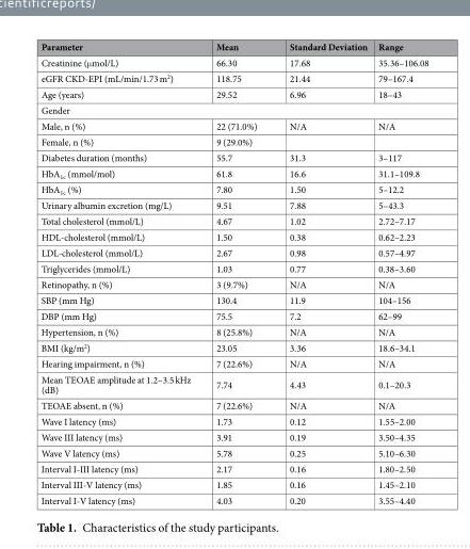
<table><thead><tr><td>Parameter</td><td>Mean</td><td>Standard Deviation</td><td>Range</td></tr></thead><tbody><tr><td>Creatinine (μmol/L)</td><td>66.30</td><td>17.68</td><td>35.36–106.08</td></tr><tr><td>eGFR CKD-EPI (mL/min/1.73 m<sup>2</sup>)</td><td>118.75</td><td>21.44</td><td>79–167.4</td></tr><tr><td>Age (years)</td><td>29.52</td><td>6.96</td><td>18–43</td></tr><tr><td colspan="4">Gender</td></tr><tr><td>Male, n (%)</td><td>22 (71.0%)</td><td>N/A</td><td>N/A</td></tr><tr><td>Female, n (%)</td><td>9 (29.0%)</td><td></td><td></td></tr><tr><td>Diabetes duration (months)</td><td>55.7</td><td>31.3</td><td>3–117</td></tr><tr><td>HbA<sub>1c</sub> (mmol/mol)</td><td>61.8</td><td>16.6</td><td>31.1–109.8</td></tr><tr><td>HbA<sub>1c</sub> (%)</td><td>7.80</td><td>1.50</td><td>5–12.2</td></tr><tr><td>Urinary albumin excretion (mg/L)</td><td>9.51</td><td>7.88</td><td>5–43.3</td></tr><tr><td>Total cholesterol (mmol/L)</td><td>4.67</td><td>1.02</td><td>2.72–7.17</td></tr><tr><td>HDL-cholesterol (mmol/L)</td><td>1.50</td><td>0.38</td><td>0.62–2.23</td></tr><tr><td>LDL-cholesterol (mmol/L)</td><td>2.67</td><td>0.98</td><td>0.57–4.97</td></tr><tr><td>Triglycerides (mmol/L)</td><td>1.03</td><td>0.77</td><td>0.38–3.60</td></tr><tr><td>Retinopathy, n (%)</td><td>3 (9.7%)</td><td>N/A</td><td>N/A</td></tr><tr><td>SBP (mm Hg)</td><td>130.4</td><td>11.9</td><td>104–156</td></tr><tr><td>DBP (mm Hg)</td><td>75.5</td><td>7.2</td><td>62–99</td></tr><tr><td>Hypertension, n (%)</td><td>8 (25.8%)</td><td>N/A</td><td>N/A</td></tr><tr><td>BMI (kg/m<sup>2</sup>)</td><td>23.05</td><td>3.36</td><td>18.6–34.1</td></tr><tr><td>Hearing impairment, n (%)</td><td>7 (22.6%)</td><td>N/A</td><td>N/A</td></tr><tr><td>Mean TEOAE amplitude at 1.2–3.5 kHz (dB)</td><td>7.74</td><td>4.43</td><td>0.1–20.3</td></tr><tr><td>TEOAE absent, n (%)</td><td>7 (22.6%)</td><td>N/A</td><td>N/A</td></tr><tr><td>Wave I latency (ms)</td><td>1.73</td><td>0.12</td><td>1.55–2.00</td></tr><tr><td>Wave III latency (ms)</td><td>3.91</td><td>0.19</td><td>3.50–4.35</td></tr><tr><td>Wave V latency (ms)</td><td>5.78</td><td>0.25</td><td>5.10–6.30</td></tr><tr><td>Interval I-III latency (ms)</td><td>2.17</td><td>0.16</td><td>1.80–2.50</td></tr><tr><td>Interval III-V latency (ms)</td><td>1.85</td><td>0.16</td><td>1.45–2.10</td></tr><tr><td>Interval I-V latency (ms)</td><td>4.03</td><td>0.20</td><td>3.55–4.40</td></tr></tbody></table>